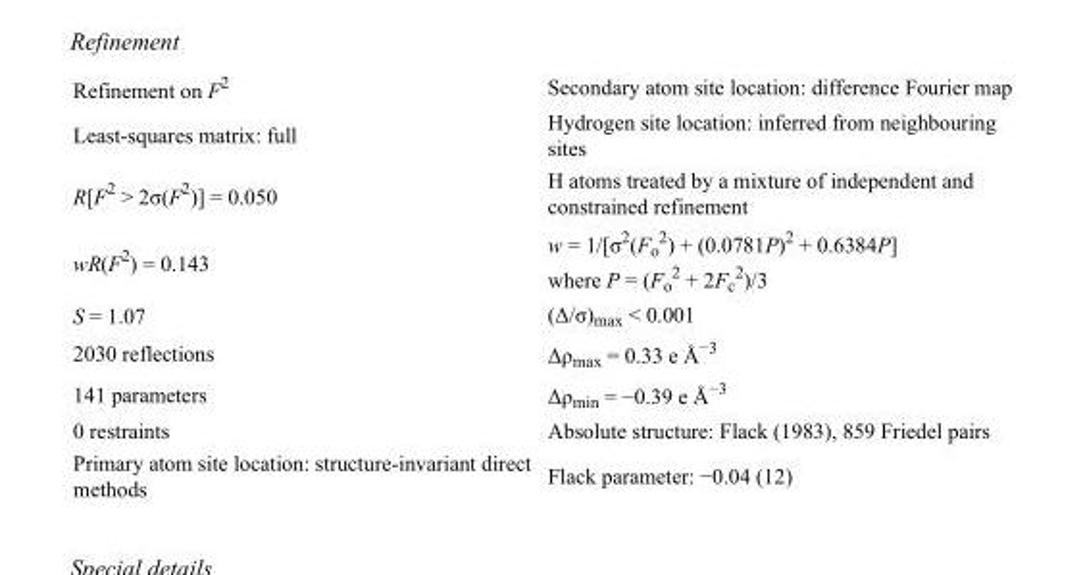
<table><tbody><tr><td>Refinement on F<sup>2</sup></td><td>Secondary atom site location: difference Fourier map</td></tr><tr><td>Least-squares matrix: full</td><td>Hydrogen site location: inferred from neighbouring sites</td></tr><tr><td>R[F<sup>2</sup> &gt; 2σ(F<sup>2</sup>)] = 0.050</td><td>H atoms treated by a mixture of independent and constrained refinement</td></tr><tr><td>wR(F<sup>2</sup>) = 0.143</td><td>w = 1/[σ<sup>2</sup>(F<sub>o</sub> <sup>2</sup>) + (0.0781P)<sup>2</sup> + 0.6384P] where P = (F<sub>o</sub> <sup>2</sup> + 2F<sub>c</sub> <sup>2</sup>)/3</td></tr><tr><td>S = 1.07</td><td>(Δ/σ)<sub>max</sub> &lt; 0.001</td></tr><tr><td>2030 reflections</td><td>Δρ<sub>max</sub> = 0.33 e Å<sup>−3</sup></td></tr><tr><td>141 parameters</td><td>Δρ<sub>min</sub> = −0.39 e Å<sup>−3</sup></td></tr><tr><td>0 restraints</td><td>Absolute structure: Flack (1983), 859 Friedel pairs</td></tr><tr><td>Primary atom site location: structure-invariant direct methods</td><td>Flack parameter: −0.04 (12)</td></tr></tbody></table>